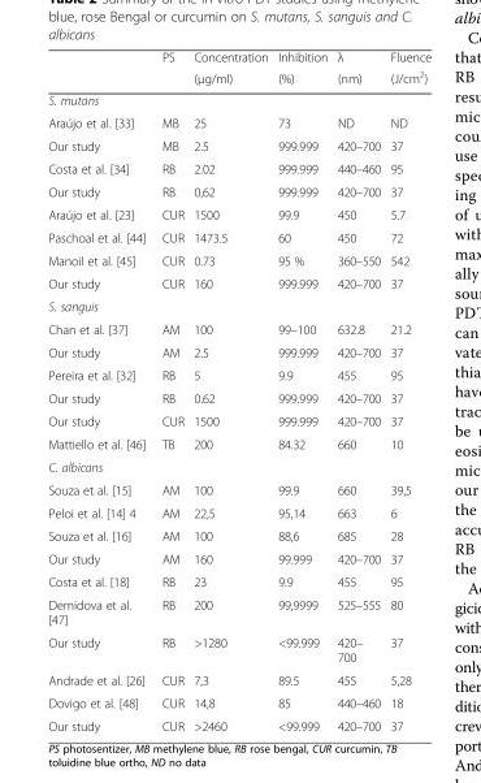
<table><thead><tr><td rowspan="2"></td><td rowspan="2">PS</td><td rowspan="2">Concentration (μg/ml)</td><td rowspan="2">Inhibition (%)</td><td rowspan="2">λ (nm)</td><td rowspan="2">Fluence (J/cm<sup>2</sup>)</td></tr><tr></tr></thead><tbody><tr><td colspan="6">S. mutans</td></tr><tr><td>Araújo et al. [33]</td><td>MB</td><td>25</td><td>73</td><td>ND</td><td>ND</td></tr><tr><td>Our study</td><td>MB</td><td>2.5</td><td>999.999</td><td>420–700</td><td>37</td></tr><tr><td>Costa et al. [34]</td><td>RB</td><td>2.02</td><td>999.999</td><td>440–460</td><td>95</td></tr><tr><td>Our study</td><td>RB</td><td>0,62</td><td>999.999</td><td>420–700</td><td>37</td></tr><tr><td>Araújo et al. [23]</td><td>CUR</td><td>1500</td><td>99.9</td><td>450</td><td>5.7</td></tr><tr><td>Paschoal et al. [44]</td><td>CUR</td><td>1473.5</td><td>60</td><td>450</td><td>72</td></tr><tr><td>Manoil et al. [45]</td><td>CUR</td><td>0.73</td><td>95 %</td><td>360–550</td><td>542</td></tr><tr><td>Our study</td><td>CUR</td><td>160</td><td>999.999</td><td>420–700</td><td>37</td></tr><tr><td colspan="6">S. sanguis</td></tr><tr><td>Chan et al. [37]</td><td>AM</td><td>100</td><td>99–100</td><td>632.8</td><td>21.2</td></tr><tr><td>Our study</td><td>AM</td><td>2.5</td><td>999.999</td><td>420–700</td><td>37</td></tr><tr><td>Pereira et al. [32]</td><td>RB</td><td>5</td><td>9.9</td><td>455</td><td>95</td></tr><tr><td>Our study</td><td>RB</td><td>0.62</td><td>999.999</td><td>420–700</td><td>37</td></tr><tr><td>Our study</td><td>CUR</td><td>1500</td><td>999.999</td><td>420–700</td><td>37</td></tr><tr><td>Mattiello et al. [46]</td><td>TB</td><td>200</td><td>84.32</td><td>660</td><td>10</td></tr><tr><td colspan="6">C. albicans</td></tr><tr><td>Souza et al. [15]</td><td>AM</td><td>100</td><td>99.9</td><td>660</td><td>39,5</td></tr><tr><td>Peloi et al. [14] 4</td><td>AM</td><td>22,5</td><td>95,14</td><td>663</td><td>6</td></tr><tr><td>Souza et al. [16]</td><td>AM</td><td>100</td><td>88,6</td><td>685</td><td>28</td></tr><tr><td>Our study</td><td>AM</td><td>160</td><td>99.999</td><td>420–700</td><td>37</td></tr><tr><td>Costa et al. [18]</td><td>RB</td><td>23</td><td>9.9</td><td>455</td><td>95</td></tr><tr><td>Demidova et al. [47]</td><td>RB</td><td>200</td><td>99,9999</td><td>525–555</td><td>80</td></tr><tr><td>Our study</td><td>RB</td><td>&gt;1280</td><td>&lt;99.999</td><td>420– 700</td><td>37</td></tr><tr><td>Andrade et al. [26]</td><td>CUR</td><td>7,3</td><td>89.5</td><td>455</td><td>5,28</td></tr><tr><td>Dovigo et al. [48]</td><td>CUR</td><td>14,8</td><td>85</td><td>440–460</td><td>18</td></tr><tr><td>Our study</td><td>CUR</td><td>&gt;2460</td><td>&lt;99.999</td><td>420–700</td><td>37</td></tr></tbody></table>